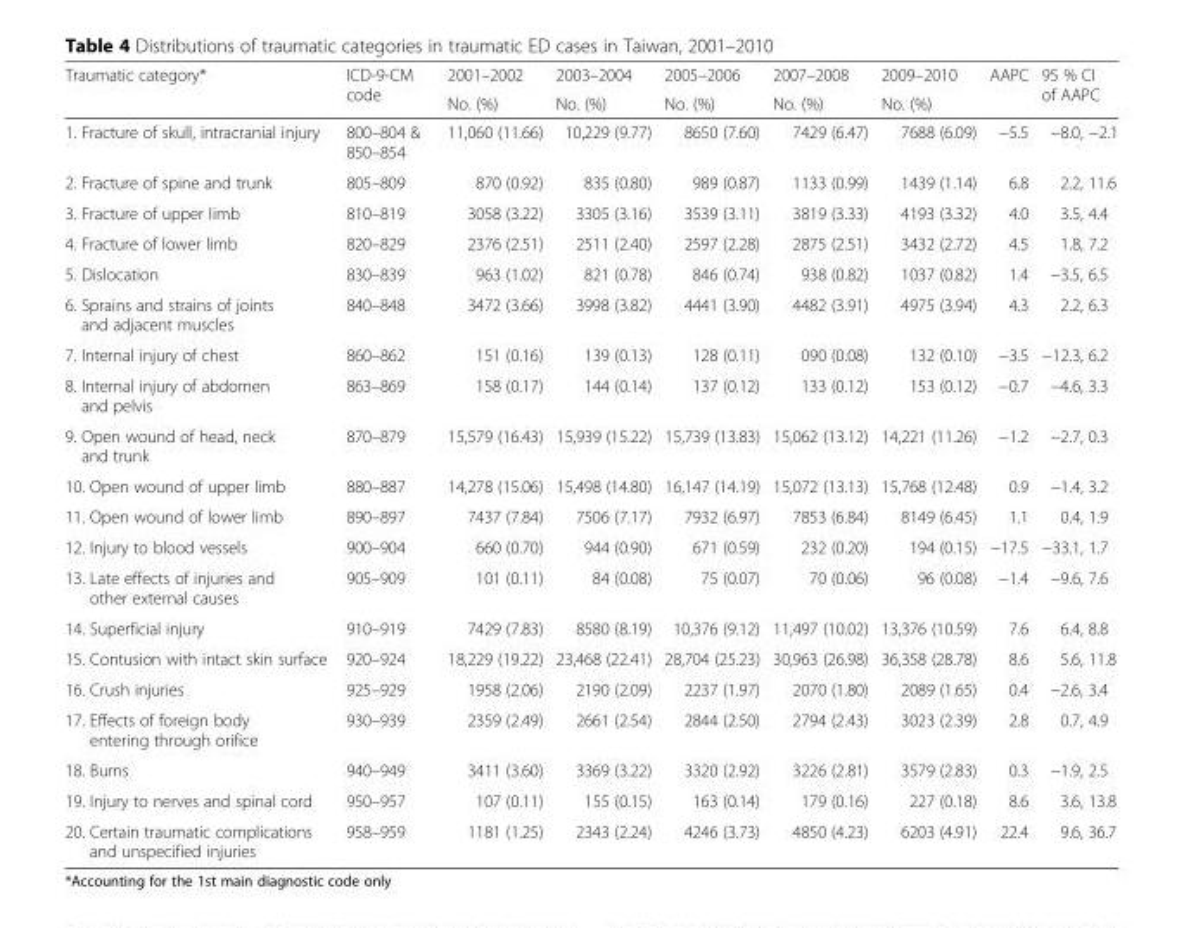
<table><thead><tr><td rowspan="2">Traumatic category*</td><td rowspan="2">ICD-9-CM code</td><td rowspan="2">2001–2002 No. (%)</td><td rowspan="2">2003–2004 No. (%)</td><td rowspan="2">2005–2006 No. (%)</td><td rowspan="2">2007–2008 No. (%)</td><td rowspan="2">2009–2010 No. (%)</td><td rowspan="2">AAPC</td><td rowspan="2">95 % CI of AAPC</td></tr><tr></tr></thead><tbody><tr><td>1. Fracture of skull, intracranial injury</td><td>800–804 &amp; 850–854</td><td>11,060 (11.66)</td><td>10,229 (9.77)</td><td>8650 (7.60)</td><td>7429 (6.47)</td><td>7688 (6.09)</td><td>−5.5</td><td>−8.0, −2.1</td></tr><tr><td>2. Fracture of spine and trunk</td><td>805–809</td><td>870 (0.92)</td><td>835 (0.80)</td><td>989 (0.87)</td><td>1133 (0.99)</td><td>1439 (1.14)</td><td>6.8</td><td>2.2, 11.6</td></tr><tr><td>3. Fracture of upper limb</td><td>810–819</td><td>3058 (3.22)</td><td>3305 (3.16)</td><td>3539 (3.11)</td><td>3819 (3.33)</td><td>4193 (3.32)</td><td>4.0</td><td>3.5, 4.4</td></tr><tr><td>4. Fracture of lower limb</td><td>820–829</td><td>2376 (2.51)</td><td>2511 (2.40)</td><td>2597 (2.28)</td><td>2875 (2.51)</td><td>3432 (2.72)</td><td>4.5</td><td>1.8, 7.2</td></tr><tr><td>5. Dislocation</td><td>830–839</td><td>963 (1.02)</td><td>821 (0.78)</td><td>846 (0.74)</td><td>938 (0.82)</td><td>1037 (0.82)</td><td>1.4</td><td>−3.5, 6.5</td></tr><tr><td>6. Sprains and strains of joints and adjacent muscles</td><td>840–848</td><td>3472 (3.66)</td><td>3998 (3.82)</td><td>4441 (3.90)</td><td>4482 (3.91)</td><td>4975 (3.94)</td><td>4.3</td><td>2.2, 6.3</td></tr><tr><td>7. Internal injury of chest</td><td>860–862</td><td>151 (0.16)</td><td>139 (0.13)</td><td>128 (0.11)</td><td>090 (0.08)</td><td>132 (0.10)</td><td>−3.5</td><td>−12.3, 6.2</td></tr><tr><td>8. Internal injury of abdomen and pelvis</td><td>863–869</td><td>158 (0.17)</td><td>144 (0.14)</td><td>137 (0.12)</td><td>133 (0.12)</td><td>153 (0.12)</td><td>−0.7</td><td>−4.6, 3.3</td></tr><tr><td>9. Open wound of head, neck and trunk</td><td>870–879</td><td>15,579 (16.43)</td><td>15,939 (15.22)</td><td>15,739 (13.83)</td><td>15,062 (13.12)</td><td>14,221 (11.26)</td><td>−1.2</td><td>−2.7, 0.3</td></tr><tr><td>10. Open wound of upper limb</td><td>880–887</td><td>14,278 (15.06)</td><td>15,498 (14.80)</td><td>16,147 (14.19)</td><td>15,072 (13.13)</td><td>15,768 (12.48)</td><td>0.9</td><td>−1.4, 3.2</td></tr><tr><td>11. Open wound of lower limb</td><td>890–897</td><td>7437 (7.84)</td><td>7506 (7.17)</td><td>7932 (6.97)</td><td>7853 (6.84)</td><td>8149 (6.45)</td><td>1.1</td><td>0.4, 1.9</td></tr><tr><td>12. Injury to blood vessels</td><td>900–904</td><td>660 (0.70)</td><td>944 (0.90)</td><td>671 (0.59)</td><td>232 (0.20)</td><td>194 (0.15)</td><td>−17.5</td><td>−33.1, 1.7</td></tr><tr><td>13. Late effects of injuries and other external causes</td><td>905–909</td><td>101 (0.11)</td><td>84 (0.08)</td><td>75 (0.07)</td><td>70 (0.06)</td><td>96 (0.08)</td><td>−1.4</td><td>−9.6, 7.6</td></tr><tr><td>14. Superficial injury</td><td>910–919</td><td>7429 (7.83)</td><td>8580 (8.19)</td><td>10,376 (9.12)</td><td>11,497 (10.02)</td><td>13,376 (10.59)</td><td>7.6</td><td>6.4, 8.8</td></tr><tr><td>15. Contusion with intact skin surface</td><td>920–924</td><td>18,229 (19.22)</td><td>23,468 (22.41)</td><td>28,704 (25.23)</td><td>30,963 (26.98)</td><td>36,358 (28.78)</td><td>8.6</td><td>5.6, 11.8</td></tr><tr><td>16. Crush injuries</td><td>925–929</td><td>1958 (2.06)</td><td>2190 (2.09)</td><td>2237 (1.97)</td><td>2070 (1.80)</td><td>2089 (1.65)</td><td>0.4</td><td>−2.6, 3.4</td></tr><tr><td>17. Effects of foreign body entering through orifice</td><td>930–939</td><td>2359 (2.49)</td><td>2661 (2.54)</td><td>2844 (2.50)</td><td>2794 (2.43)</td><td>3023 (2.39)</td><td>2.8</td><td>0.7, 4.9</td></tr><tr><td>18. Burns</td><td>940–949</td><td>3411 (3.60)</td><td>3369 (3.22)</td><td>3320 (2.92)</td><td>3226 (2.81)</td><td>3579 (2.83)</td><td>0.3</td><td>−1.9, 2.5</td></tr><tr><td>19. Injury to nerves and spinal cord</td><td>950–957</td><td>107 (0.11)</td><td>155 (0.15)</td><td>163 (0.14)</td><td>179 (0.16)</td><td>227 (0.18)</td><td>8.6</td><td>3.6, 13.8</td></tr><tr><td>20. Certain traumatic complications and unspecified injuries</td><td>958–959</td><td>1181 (1.25)</td><td>2343 (2.24)</td><td>4246 (3.73)</td><td>4850 (4.23)</td><td>6203 (4.91)</td><td>22.4</td><td>9.6, 36.7</td></tr></tbody></table>